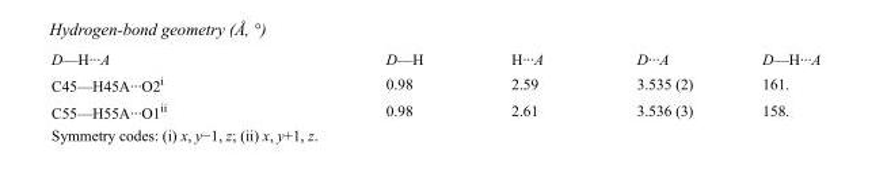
<table><tbody><tr><td>D—H···A</td><td>D—H</td><td>H···A</td><td>D···A</td><td>D—H···A</td></tr><tr><td>C45—H45A···O2<sup>i</sup></td><td>0.98</td><td>2.59</td><td>3.535 (2)</td><td>161.</td></tr><tr><td>C55—H55A···O1<sup>ii</sup></td><td>0.98</td><td>2.61</td><td>3.536 (3)</td><td>158.</td></tr></tbody></table>